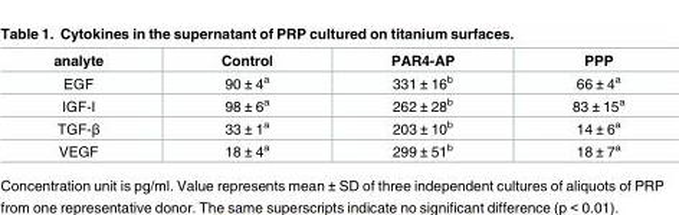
<table><thead><tr><td>analyte</td><td>Control</td><td>PAR4-AP</td><td>PPP</td></tr></thead><tbody><tr><td>EGF</td><td>90 ± 4<sup>a</sup></td><td>331 ± 16<sup>b</sup></td><td>66 ± 4<sup>a</sup></td></tr><tr><td>IGF-I</td><td>98 ± 6<sup>a</sup></td><td>262 ± 28<sup>b</sup></td><td>83 ± 15<sup>a</sup></td></tr><tr><td>TGF-β</td><td>33 ± 1<sup>a</sup></td><td>203 ± 10<sup>b</sup></td><td>14 ± 6<sup>a</sup></td></tr><tr><td>VEGF</td><td>18 ± 4<sup>a</sup></td><td>299 ± 51<sup>b</sup></td><td>18 ± 7<sup>a</sup></td></tr></tbody></table>